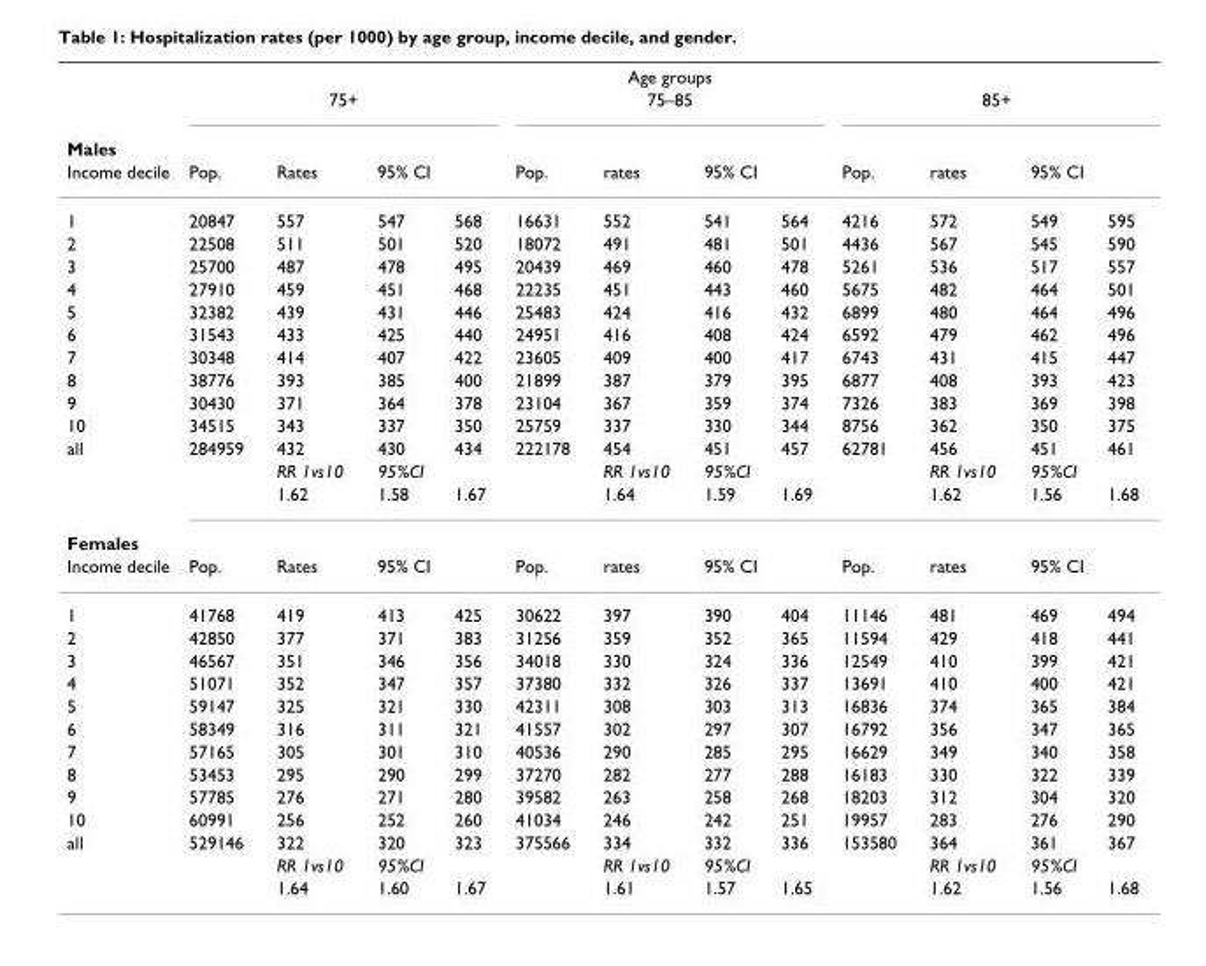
<table><thead><tr><td rowspan="2"></td><td colspan="12">Age groups</td></tr><tr><td colspan="4">75+</td><td colspan="4">75–85</td><td colspan="4">85+</td></tr><tr><td colspan="13">Males</td></tr><tr><td rowspan="2">Income decile 1</td><td rowspan="2">Pop. 20847</td><td rowspan="2">Rates 557</td><td colspan="2">95% CI</td><td rowspan="2">Pop. 16631</td><td rowspan="2">rates 552</td><td colspan="2">95% CI</td><td rowspan="2">Pop. 4216</td><td rowspan="2">rates 572</td><td colspan="2">95% CI</td></tr><tr><td>547</td><td>568</td><td>541</td><td>564</td><td>549</td><td>595</td></tr></thead><tbody><tr><td>2</td><td>22508</td><td>511</td><td>501</td><td>520</td><td>18072</td><td>491</td><td>481</td><td>501</td><td>4436</td><td>567</td><td>545</td><td>590</td></tr><tr><td>3</td><td>25700</td><td>487</td><td>478</td><td>495</td><td>20439</td><td>469</td><td>460</td><td>478</td><td>5261</td><td>536</td><td>517</td><td>557</td></tr><tr><td>4</td><td>27910</td><td>459</td><td>451</td><td>468</td><td>22235</td><td>451</td><td>443</td><td>460</td><td>5675</td><td>482</td><td>464</td><td>501</td></tr><tr><td>5</td><td>32382</td><td>439</td><td>431</td><td>446</td><td>25483</td><td>424</td><td>416</td><td>432</td><td>6899</td><td>480</td><td>464</td><td>496</td></tr><tr><td>6</td><td>31543</td><td>433</td><td>425</td><td>440</td><td>24951</td><td>416</td><td>408</td><td>424</td><td>6592</td><td>479</td><td>462</td><td>496</td></tr><tr><td>7</td><td>30348</td><td>414</td><td>407</td><td>422</td><td>23605</td><td>409</td><td>400</td><td>417</td><td>6743</td><td>431</td><td>415</td><td>447</td></tr><tr><td>8</td><td>38776</td><td>393</td><td>385</td><td>400</td><td>21899</td><td>387</td><td>379</td><td>395</td><td>6877</td><td>408</td><td>393</td><td>423</td></tr><tr><td>9</td><td>30430</td><td>371</td><td>364</td><td>378</td><td>23104</td><td>367</td><td>359</td><td>374</td><td>7326</td><td>383</td><td>369</td><td>398</td></tr><tr><td>10</td><td>34515</td><td>343</td><td>337</td><td>350</td><td>25759</td><td>337</td><td>330</td><td>344</td><td>8756</td><td>362</td><td>350</td><td>375</td></tr><tr><td rowspan="3">all</td><td>284959</td><td>432</td><td>430</td><td>434</td><td>222178</td><td>454</td><td>451</td><td>457</td><td>62781</td><td>456</td><td>451</td><td>461</td></tr><tr><td></td><td>RR 1vs10</td><td>95%CI</td><td></td><td></td><td>RR 1vs10</td><td>95%CI</td><td></td><td></td><td>RR 1vs10</td><td>95%CI</td><td></td></tr><tr><td></td><td>1.62</td><td>1.58</td><td>1.67</td><td></td><td>1.64</td><td>1.59</td><td>1.69</td><td></td><td>1.62</td><td>1.56</td><td>1.68</td></tr><tr><td colspan="13">Females</td></tr><tr><td>Income decile</td><td>Pop.</td><td>Rates</td><td colspan="2">95% CI</td><td>Pop.</td><td>rates</td><td colspan="2">95% CI</td><td>Pop.</td><td>rates</td><td colspan="2">95% CI</td></tr><tr><td>1</td><td>41768</td><td>419</td><td>413</td><td>425</td><td>30622</td><td>397</td><td>390</td><td>404</td><td>11146</td><td>481</td><td>469</td><td>494</td></tr><tr><td>2</td><td>42850</td><td>377</td><td>371</td><td>383</td><td>31256</td><td>359</td><td>352</td><td>365</td><td>11594</td><td>429</td><td>418</td><td>441</td></tr><tr><td>3</td><td>46567</td><td>351</td><td>346</td><td>356</td><td>34018</td><td>330</td><td>324</td><td>336</td><td>12549</td><td>410</td><td>399</td><td>421</td></tr><tr><td>4</td><td>51071</td><td>352</td><td>347</td><td>357</td><td>37380</td><td>332</td><td>326</td><td>337</td><td>13691</td><td>410</td><td>400</td><td>421</td></tr><tr><td>5</td><td>59147</td><td>325</td><td>321</td><td>330</td><td>42311</td><td>308</td><td>303</td><td>313</td><td>16836</td><td>374</td><td>365</td><td>384</td></tr><tr><td>6</td><td>58349</td><td>316</td><td>311</td><td>321</td><td>41557</td><td>302</td><td>297</td><td>307</td><td>16792</td><td>356</td><td>347</td><td>365</td></tr><tr><td>7</td><td>57165</td><td>305</td><td>301</td><td>310</td><td>40536</td><td>290</td><td>285</td><td>295</td><td>16629</td><td>349</td><td>340</td><td>358</td></tr><tr><td>8</td><td>53453</td><td>295</td><td>290</td><td>299</td><td>37270</td><td>282</td><td>277</td><td>288</td><td>16183</td><td>330</td><td>322</td><td>339</td></tr><tr><td>9</td><td>57785</td><td>276</td><td>271</td><td>280</td><td>39582</td><td>263</td><td>258</td><td>268</td><td>18203</td><td>312</td><td>304</td><td>320</td></tr><tr><td>10</td><td>60991</td><td>256</td><td>252</td><td>260</td><td>41034</td><td>246</td><td>242</td><td>251</td><td>19957</td><td>283</td><td>276</td><td>290</td></tr><tr><td rowspan="3">all</td><td>529146</td><td>322</td><td>320</td><td>323</td><td>375566</td><td>334</td><td>332</td><td>336</td><td>153580</td><td>364</td><td>361</td><td>367</td></tr><tr><td></td><td>RR 1vs10</td><td>95%CI</td><td></td><td></td><td>RR 1vs10</td><td>95%CI</td><td></td><td></td><td>RR 1vs10</td><td>95%CI</td><td></td></tr><tr><td></td><td>1.64</td><td>1.60</td><td>1.67</td><td></td><td>1.61</td><td>1.57</td><td>1.65</td><td></td><td>1.62</td><td>1.56</td><td>1.68</td></tr></tbody></table>